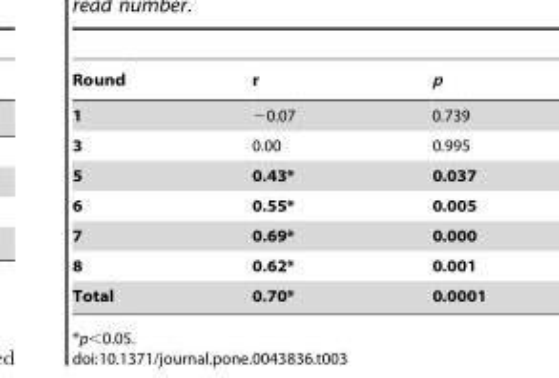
<table><thead><tr><td>Round</td><td>r</td><td>p</td></tr></thead><tbody><tr><td>1</td><td>−0.07</td><td>0.739</td></tr><tr><td>3</td><td>0.00</td><td>0.995</td></tr><tr><td>5</td><td>0.43*</td><td>0.037</td></tr><tr><td>6</td><td>0.55*</td><td>0.005</td></tr><tr><td>7</td><td>0.69*</td><td>0.000</td></tr><tr><td>8</td><td>0.62*</td><td>0.001</td></tr><tr><td>Total</td><td>0.70*</td><td>0.0001</td></tr></tbody></table>